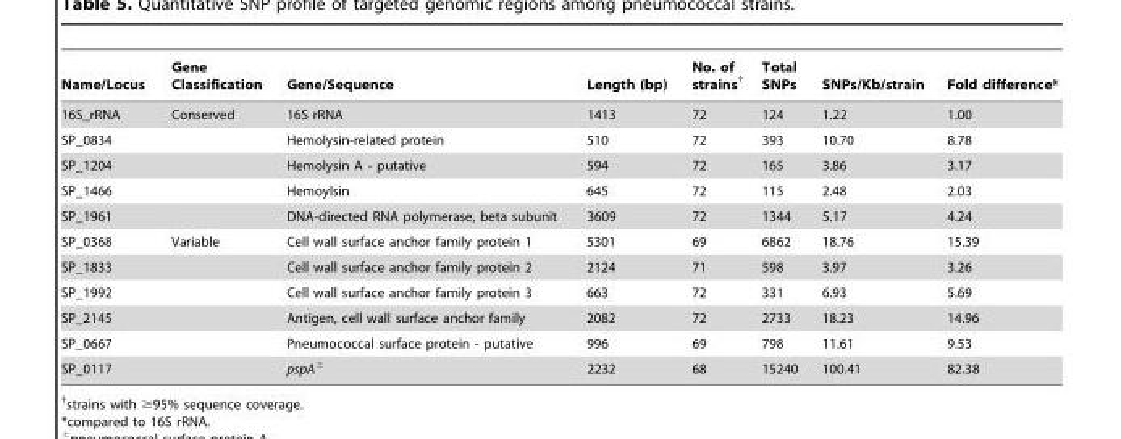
<table><thead><tr><td>Name/Locus</td><td>Gene Classification</td><td>Gene/Sequence</td><td>Length (bp)</td><td>No. of strains†</td><td>Total SNPs</td><td>SNPs/Kb/strain</td><td>Fold difference*</td></tr></thead><tbody><tr><td>16S_rRNA</td><td>Conserved</td><td>16S rRNA</td><td>1413</td><td>72</td><td>124</td><td>1.22</td><td>1.00</td></tr><tr><td>SP_0834</td><td></td><td>Hemolysin-related protein</td><td>510</td><td>72</td><td>393</td><td>10.70</td><td>8.78</td></tr><tr><td>SP_1204</td><td></td><td>Hemolysin A - putative</td><td>594</td><td>72</td><td>165</td><td>3.86</td><td>3.17</td></tr><tr><td>SP_1466</td><td></td><td>Hemoylsin</td><td>645</td><td>72</td><td>115</td><td>2.48</td><td>2.03</td></tr><tr><td>SP_1961</td><td></td><td>DNA-directed RNA polymerase, beta subunit</td><td>3609</td><td>72</td><td>1344</td><td>5.17</td><td>4.24</td></tr><tr><td>SP_0368</td><td>Variable</td><td>Cell wall surface anchor family protein 1</td><td>5301</td><td>69</td><td>6862</td><td>18.76</td><td>15.39</td></tr><tr><td>SP_1833</td><td></td><td>Cell wall surface anchor family protein 2</td><td>2124</td><td>71</td><td>598</td><td>3.97</td><td>3.26</td></tr><tr><td>SP_1992</td><td></td><td>Cell wall surface anchor family protein 3</td><td>663</td><td>72</td><td>331</td><td>6.93</td><td>5.69</td></tr><tr><td>SP_2145</td><td></td><td>Antigen, cell wall surface anchor family</td><td>2082</td><td>72</td><td>2733</td><td>18.23</td><td>14.96</td></tr><tr><td>SP_0667</td><td></td><td>Pneumococcal surface protein - putative</td><td>996</td><td>69</td><td>798</td><td>11.61</td><td>9.53</td></tr><tr><td>SP_0117</td><td></td><td>pspA±</td><td>2232</td><td>68</td><td>15240</td><td>100.41</td><td>82.38</td></tr></tbody></table>